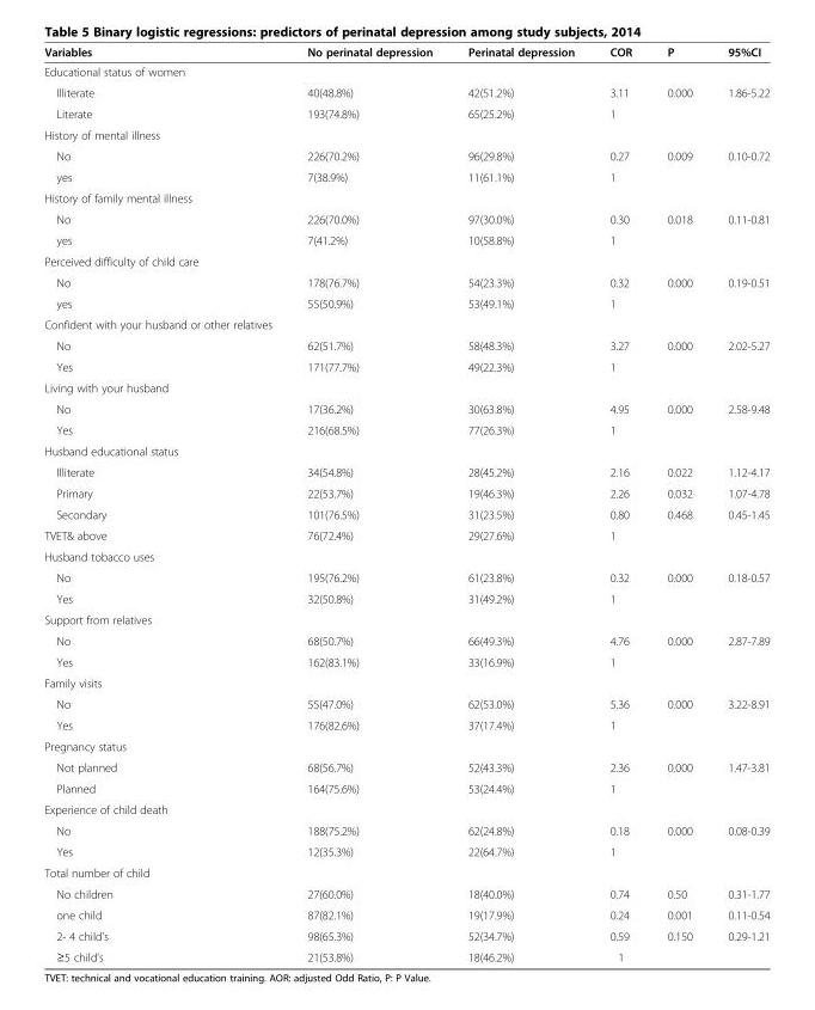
<table><thead><tr><td>Variables</td><td>No perinatal depression</td><td>Perinatal depression</td><td>COR</td><td>P</td><td>95%CI</td></tr></thead><tbody><tr><td colspan="6">Educational status of women</td></tr><tr><td>Illiterate</td><td>40(48.8%)</td><td>42(51.2%)</td><td>3.11</td><td>0.000</td><td>1.86-5.22</td></tr><tr><td>Literate</td><td>193(74.8%)</td><td>65(25.2%)</td><td>1</td><td></td><td></td></tr><tr><td colspan="6">History of mental illness</td></tr><tr><td>No</td><td>226(70.2%)</td><td>96(29.8%)</td><td>0.27</td><td>0.009</td><td>0.10-0.72</td></tr><tr><td>yes</td><td>7(38.9%)</td><td>11(61.1%)</td><td>1</td><td></td><td></td></tr><tr><td colspan="6">History of family mental illness</td></tr><tr><td>No</td><td>226(70.0%)</td><td>97(30.0%)</td><td>0.30</td><td>0.018</td><td>0.11-0.81</td></tr><tr><td>yes</td><td>7(41.2%)</td><td>10(58.8%)</td><td>1</td><td></td><td></td></tr><tr><td colspan="6">Perceived difficulty of child care</td></tr><tr><td>No</td><td>178(76.7%)</td><td>54(23.3%)</td><td>0.32</td><td>0.000</td><td>0.19-0.51</td></tr><tr><td>yes</td><td>55(50.9%)</td><td>53(49.1%)</td><td>1</td><td></td><td></td></tr><tr><td colspan="6">Confident with your husband or other relatives</td></tr><tr><td>No</td><td>62(51.7%)</td><td>58(48.3%)</td><td>3.27</td><td>0.000</td><td>2.02-5.27</td></tr><tr><td>Yes</td><td>171(77.7%)</td><td>49(22.3%)</td><td>1</td><td></td><td></td></tr><tr><td colspan="6">Living with your husband</td></tr><tr><td>No</td><td>17(36.2%)</td><td>30(63.8%)</td><td>4.95</td><td>0.000</td><td>2.58-9.48</td></tr><tr><td>Yes</td><td>216(68.5%)</td><td>77(26.3%)</td><td>1</td><td></td><td></td></tr><tr><td colspan="6">Husband educational status</td></tr><tr><td>Illiterate</td><td>34(54.8%)</td><td>28(45.2%)</td><td>2.16</td><td>0.022</td><td>1.12-4.17</td></tr><tr><td>Primary</td><td>22(53.7%)</td><td>19(46.3%)</td><td>2.26</td><td>0.032</td><td>1.07-4.78</td></tr><tr><td>Secondary</td><td>101(76.5%)</td><td>31(23.5%)</td><td>0.80</td><td>0.468</td><td>0.45-1.45</td></tr><tr><td>TVET&amp; above</td><td>76(72.4%)</td><td>29(27.6%)</td><td>1</td><td></td><td></td></tr><tr><td colspan="6">Husband tobacco uses</td></tr><tr><td>No</td><td>195(76.2%)</td><td>61(23.8%)</td><td>0.32</td><td>0.000</td><td>0.18-0.57</td></tr><tr><td>Yes</td><td>32(50.8%)</td><td>31(49.2%)</td><td>1</td><td></td><td></td></tr><tr><td colspan="6">Support from relatives</td></tr><tr><td>No</td><td>68(50.7%)</td><td>66(49.3%)</td><td>4.76</td><td>0.000</td><td>2.87-7.89</td></tr><tr><td>Yes</td><td>162(83.1%)</td><td>33(16.9%)</td><td>1</td><td></td><td></td></tr><tr><td colspan="6">Family visits</td></tr><tr><td>No</td><td>55(47.0%)</td><td>62(53.0%)</td><td>5.36</td><td>0.000</td><td>3.22-8.91</td></tr><tr><td>Yes</td><td>176(82.6%)</td><td>37(17.4%)</td><td>1</td><td></td><td></td></tr><tr><td colspan="6">Pregnancy status</td></tr><tr><td>Not planned</td><td>68(56.7%)</td><td>52(43.3%)</td><td>2.36</td><td>0.000</td><td>1.47-3.81</td></tr><tr><td>Planned</td><td>164(75.6%)</td><td>53(24.4%)</td><td>1</td><td></td><td></td></tr><tr><td colspan="6">Experience of child death</td></tr><tr><td>No</td><td>188(75.2%)</td><td>62(24.8%)</td><td>0.18</td><td>0.000</td><td>0.08-0.39</td></tr><tr><td>Yes</td><td>12(35.3%)</td><td>22(64.7%)</td><td>1</td><td></td><td></td></tr><tr><td colspan="6">Total number of child</td></tr><tr><td>No children</td><td>27(60.0%)</td><td>18(40.0%)</td><td>0.74</td><td>0.50</td><td>0.31-1.77</td></tr><tr><td>one child</td><td>87(82.1%)</td><td>19(17.9%)</td><td>0.24</td><td>0.001</td><td>0.11-0.54</td></tr><tr><td>2- 4 child’s</td><td>98(65.3%)</td><td>52(34.7%)</td><td>0.59</td><td>0.150</td><td>0.29-1.21</td></tr><tr><td>≥5 child’s</td><td>21(53.8%)</td><td>18(46.2%)</td><td>1</td><td></td><td></td></tr></tbody></table>